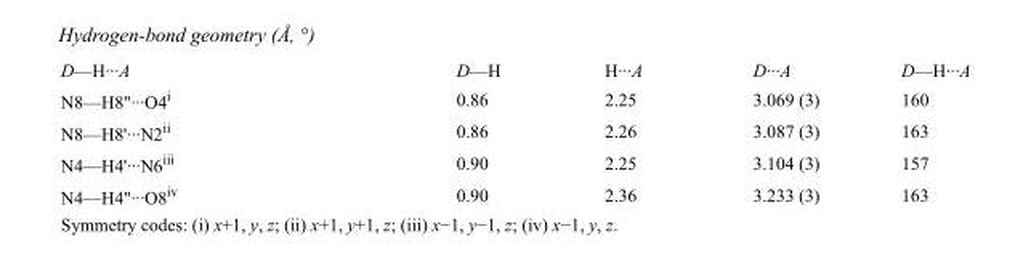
<table><tbody><tr><td>D—H···A</td><td>D—H</td><td>H···A</td><td>D···A</td><td>D—H···A</td></tr><tr><td>N8—H8&quot;···O4<sup>i</sup></td><td>0.86</td><td>2.25</td><td>3.069 (3)</td><td>160</td></tr><tr><td>N8—H8&#x27;···N2<sup>ii</sup></td><td>0.86</td><td>2.26</td><td>3.087 (3)</td><td>163</td></tr><tr><td>N4—H4&#x27;···N6<sup>iii</sup></td><td>0.90</td><td>2.25</td><td>3.104 (3)</td><td>157</td></tr><tr><td>N4—H4&quot;···O8<sup>iv</sup></td><td>0.90</td><td>2.36</td><td>3.233 (3)</td><td>163</td></tr></tbody></table>